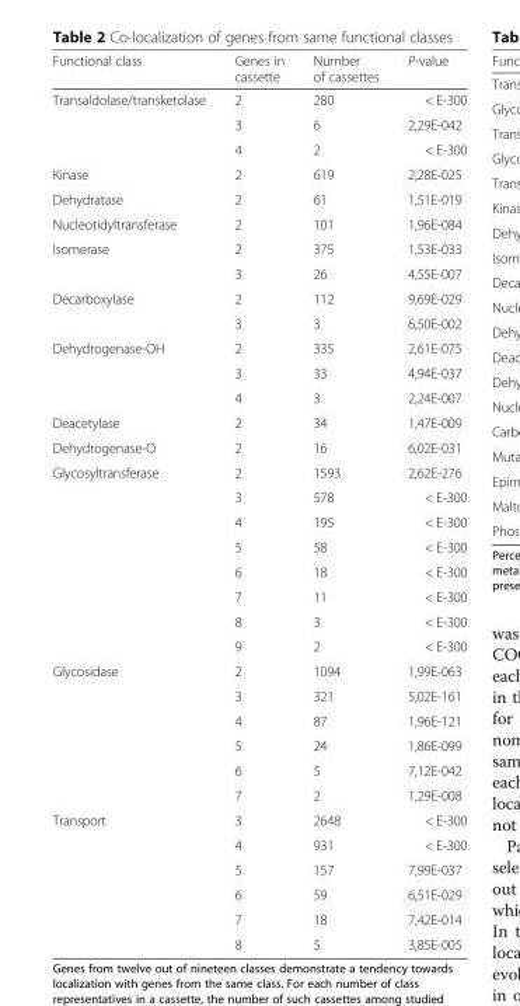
<table><thead><tr><td>Functional class</td><td>Genes in cassette</td><td>Number of cassettes</td><td>P-value</td></tr></thead><tbody><tr><td rowspan="3">Transaldolase/transketolase</td><td>2</td><td>280</td><td>&lt; E-300</td></tr><tr><td>3</td><td>6</td><td>2,29E-042</td></tr><tr><td>4</td><td>2</td><td>&lt; E-300</td></tr><tr><td>Kinase</td><td>2</td><td>619</td><td>2,28E-025</td></tr><tr><td>Dehydratase</td><td>2</td><td>61</td><td>1,51E-019</td></tr><tr><td>Nucleotidyltransferase</td><td>2</td><td>101</td><td>1,96E-084</td></tr><tr><td rowspan="2">Isomerase</td><td>2</td><td>375</td><td>1,53E-033</td></tr><tr><td>3</td><td>26</td><td>4,55E-007</td></tr><tr><td rowspan="2">Decarboxylase</td><td>2</td><td>112</td><td>9,69E-029</td></tr><tr><td>3</td><td>3</td><td>6,50E-002</td></tr><tr><td rowspan="3">Dehydrogenase-OH</td><td>2</td><td>335</td><td>2,61E-075</td></tr><tr><td>3</td><td>33</td><td>4,94E-037</td></tr><tr><td>4</td><td>3</td><td>2,24E-007</td></tr><tr><td>Deacetylase</td><td>2</td><td>34</td><td>1,47E-009</td></tr><tr><td>Dehydrogenase-O</td><td>2</td><td>16</td><td>6,02E-031</td></tr><tr><td rowspan="8">Glycosyltransferase</td><td>2</td><td>1593</td><td>2,62E-276</td></tr><tr><td>3</td><td>578</td><td>&lt; E-300</td></tr><tr><td>4</td><td>195</td><td>&lt; E-300</td></tr><tr><td>5</td><td>58</td><td>&lt; E-300</td></tr><tr><td>6</td><td>18</td><td>&lt; E-300</td></tr><tr><td>7</td><td>11</td><td>&lt; E-300</td></tr><tr><td>8</td><td>3</td><td>&lt; E-300</td></tr><tr><td>9</td><td>2</td><td>&lt; E-300</td></tr><tr><td rowspan="6">Glycosidase</td><td>2</td><td>1094</td><td>1,99E-063</td></tr><tr><td>3</td><td>321</td><td>5,02E-161</td></tr><tr><td>4</td><td>87</td><td>1,96E-121</td></tr><tr><td>5</td><td>24</td><td>1,86E-099</td></tr><tr><td>6</td><td>5</td><td>7,12E-042</td></tr><tr><td>7</td><td>2</td><td>1,29E-008</td></tr><tr><td rowspan="6">Transport</td><td>3</td><td>2648</td><td>&lt; E-300</td></tr><tr><td>4</td><td>931</td><td>&lt; E-300</td></tr><tr><td>5</td><td>157</td><td>7,99E-037</td></tr><tr><td>6</td><td>59</td><td>6,51E-029</td></tr><tr><td>7</td><td>18</td><td>7,42E-014</td></tr><tr><td>8</td><td>5</td><td>3,85E-005</td></tr></tbody></table>